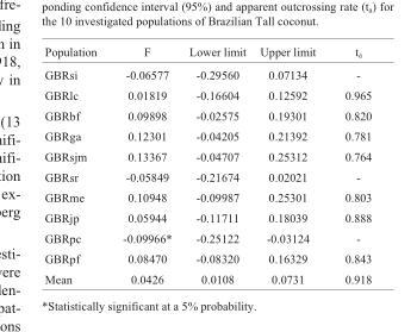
<table><thead><tr><td>Population</td><td>F</td><td>Lower limit</td><td>Upper limit</td><td>t<sub>a</sub></td></tr></thead><tbody><tr><td>GBRsi</td><td>-0.06577</td><td>-0.29560</td><td>0.07134</td><td>-</td></tr><tr><td>GBRlc</td><td>0.01819</td><td>-0.16604</td><td>0.12592</td><td>0.965</td></tr><tr><td>GBRbf</td><td>0.09898</td><td>-0.02575</td><td>0.19301</td><td>0.820</td></tr><tr><td>GBRga</td><td>0.12301</td><td>-0.04205</td><td>0.21392</td><td>0.781</td></tr><tr><td>GBRsjm</td><td>0.13367</td><td>-0.04707</td><td>0.25312</td><td>0.764</td></tr><tr><td>GBRsr</td><td>-0.05849</td><td>-0.21674</td><td>0.02021</td><td>-</td></tr><tr><td>GBRme</td><td>0.10948</td><td>-0.09987</td><td>0.25301</td><td>0.803</td></tr><tr><td>GBRjp</td><td>0.05944</td><td>-0.11711</td><td>0.18039</td><td>0.888</td></tr><tr><td>GBRpc</td><td>-0.09966*</td><td>-0.25122</td><td>-0.03124</td><td>-</td></tr><tr><td>GBRpf</td><td>0.08470</td><td>-0.08320</td><td>0.16329</td><td>0.843</td></tr><tr><td>Mean</td><td>0.0426</td><td>0.0108</td><td>0.0731</td><td>0.918</td></tr></tbody></table>